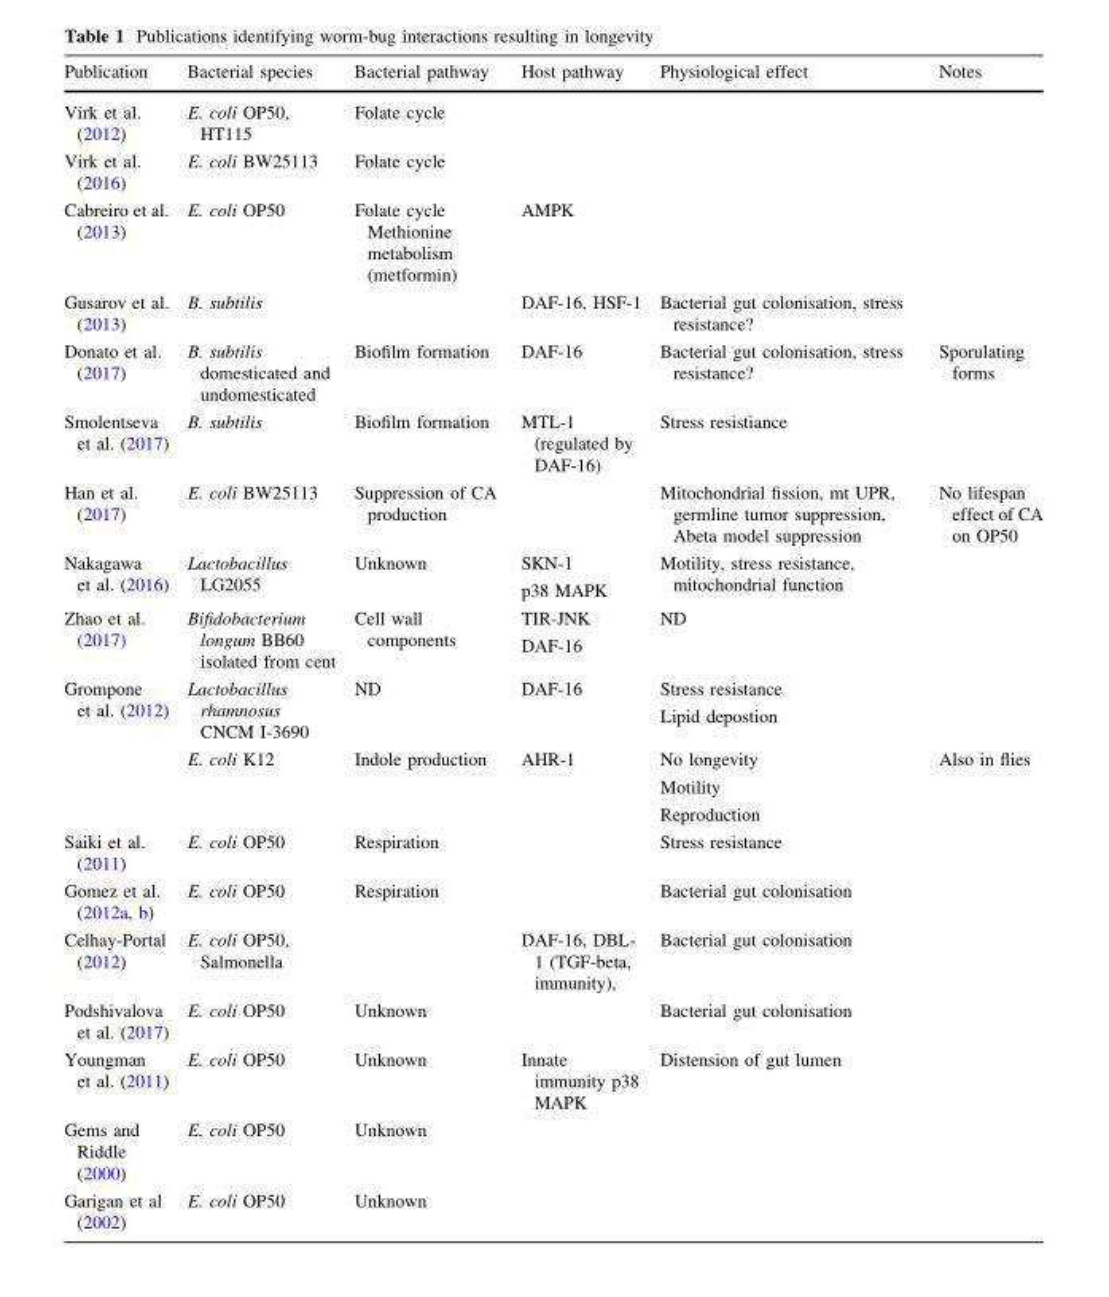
<table><thead><tr><td>Publication</td><td>Bacterial species</td><td>Bacterial pathway</td><td>Host pathway</td><td>Physiological effect</td><td>Notes</td></tr></thead><tbody><tr><td>Virk et al. (2012)</td><td>E. coli OP50, HT115</td><td>Folate cycle</td><td></td><td></td><td></td></tr><tr><td>Virk et al. (2016)</td><td>E. coli BW25113</td><td>Folate cycle</td><td></td><td></td><td></td></tr><tr><td>Cabreiro et al. (2013)</td><td>E. coli OP50</td><td>Folate cycle Methionine metabolism (metformin)</td><td>AMPK</td><td></td><td></td></tr><tr><td>Gusarov et al. (2013)</td><td>B. subtilis</td><td></td><td>DAF-16, HSF-1</td><td>Bacterial gut colonisation, stress resistance?</td><td></td></tr><tr><td>Donato et al. (2017)</td><td>B. subtilis domesticated and undomesticated</td><td>Biofilm formation</td><td>DAF-16</td><td>Bacterial gut colonisation, stress resistance?</td><td>Sporulating forms</td></tr><tr><td>Smolentseva et al. (2017)</td><td>B. subtilis</td><td>Biofilm formation</td><td>MTL-1 (regulated by DAF-16)</td><td>Stress resistiance</td><td></td></tr><tr><td>Han et al. (2017)</td><td>E. coli BW25113</td><td>Suppression of CA production</td><td></td><td>Mitochondrial fission, mt UPR, germline tumor suppression, Abeta model suppression</td><td>No lifespan effect of CA on OP50</td></tr><tr><td>Nakagawa et al. (2016)</td><td>Lactobacillus LG2055</td><td>Unknown</td><td>SKN-1 p38 MAPK</td><td>Motility, stress resistance, mitochondrial function</td><td></td></tr><tr><td>Zhao et al. (2017)</td><td>Bifidobacterium longum BB60 isolated from cent</td><td>Cell wall components</td><td>TIR-JNK DAF-16</td><td>ND</td><td></td></tr><tr><td rowspan="2">Grompone et al. (2012)</td><td>Lactobacillus rhamnosus CNCM I-3690</td><td>ND</td><td>DAF-16</td><td>Stress resistance Lipid depostion</td><td></td></tr><tr><td>E. coli K12</td><td>Indole production</td><td>AHR-1</td><td>No longevity Motility Reproduction</td><td>Also in flies</td></tr><tr><td>Saiki et al. (2011)</td><td>E. coli OP50</td><td>Respiration</td><td></td><td>Stress resistance</td><td></td></tr><tr><td>Gomez et al. (2012a, b)</td><td>E. coli OP50</td><td>Respiration</td><td></td><td>Bacterial gut colonisation</td><td></td></tr><tr><td>Celhay-Portal (2012)</td><td>E. coli OP50, Salmonella</td><td></td><td>DAF-16, DBL- 1 (TGF-beta, immunity),</td><td>Bacterial gut colonisation</td><td></td></tr><tr><td>Podshivalova et al. (2017)</td><td>E. coli OP50</td><td>Unknown</td><td></td><td>Bacterial gut colonisation</td><td></td></tr><tr><td>Youngman et al. (2011)</td><td>E. coli OP50</td><td>Unknown</td><td>Innate immunity p38 MAPK</td><td>Distension of gut lumen</td><td></td></tr><tr><td>Gems and Riddle (2000)</td><td>E. coli OP50</td><td>Unknown</td><td></td><td></td><td></td></tr><tr><td>Garigan et al (2002)</td><td>E. coli OP50</td><td>Unknown</td><td></td><td></td><td></td></tr></tbody></table>